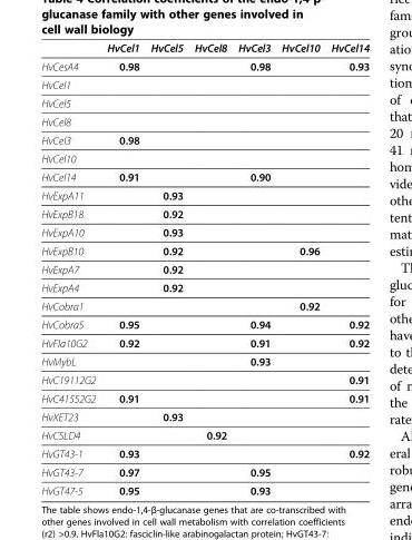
<table><thead><tr><td></td><td>HvCel1</td><td>HvCel5</td><td>HvCel8</td><td>HvCel3</td><td>HvCel10</td><td>HvCel14</td></tr></thead><tbody><tr><td>HvCesA4</td><td>0.98</td><td></td><td></td><td>0.98</td><td></td><td>0.93</td></tr><tr><td colspan="7">HvCel1</td></tr><tr><td colspan="7">HvCel5</td></tr><tr><td colspan="7">HvCel8</td></tr><tr><td>HvCel3</td><td>0.98</td><td></td><td></td><td></td><td></td><td></td></tr><tr><td colspan="7">HvCel10</td></tr><tr><td>HvCel14</td><td>0.91</td><td></td><td></td><td>0.90</td><td></td><td></td></tr><tr><td>HvExpA11</td><td></td><td>0.93</td><td></td><td></td><td></td><td></td></tr><tr><td>HvExpB18</td><td></td><td>0.92</td><td></td><td></td><td></td><td></td></tr><tr><td>HvExpA10</td><td></td><td>0.93</td><td></td><td></td><td></td><td></td></tr><tr><td>HvExpB10</td><td></td><td>0.92</td><td></td><td></td><td>0.96</td><td></td></tr><tr><td>HvExpA7</td><td></td><td>0.92</td><td></td><td></td><td></td><td></td></tr><tr><td>HvExpA4</td><td></td><td>0.92</td><td></td><td></td><td></td><td></td></tr><tr><td>HvCobra1</td><td></td><td></td><td></td><td></td><td>0.92</td><td></td></tr><tr><td>HvCobra5</td><td>0.95</td><td></td><td></td><td>0.94</td><td></td><td>0.92</td></tr><tr><td>HvFla10G2</td><td>0.92</td><td></td><td></td><td>0.91</td><td></td><td>0.92</td></tr><tr><td>HvMybL</td><td></td><td></td><td></td><td>0.93</td><td></td><td></td></tr><tr><td>HvC19112G2</td><td></td><td></td><td></td><td></td><td></td><td>0.91</td></tr><tr><td>HvC41552G2</td><td>0.91</td><td></td><td></td><td></td><td></td><td>0.91</td></tr><tr><td>HvXET23</td><td></td><td>0.93</td><td></td><td></td><td></td><td></td></tr><tr><td>HvCSLD4</td><td></td><td></td><td>0.92</td><td></td><td></td><td></td></tr><tr><td>HvGT43-1</td><td>0.93</td><td></td><td></td><td></td><td></td><td>0.92</td></tr><tr><td>HvGT43-7</td><td>0.97</td><td></td><td></td><td>0.95</td><td></td><td></td></tr><tr><td>HvGT47-5</td><td>0.95</td><td></td><td></td><td>0.93</td><td></td><td></td></tr></tbody></table>